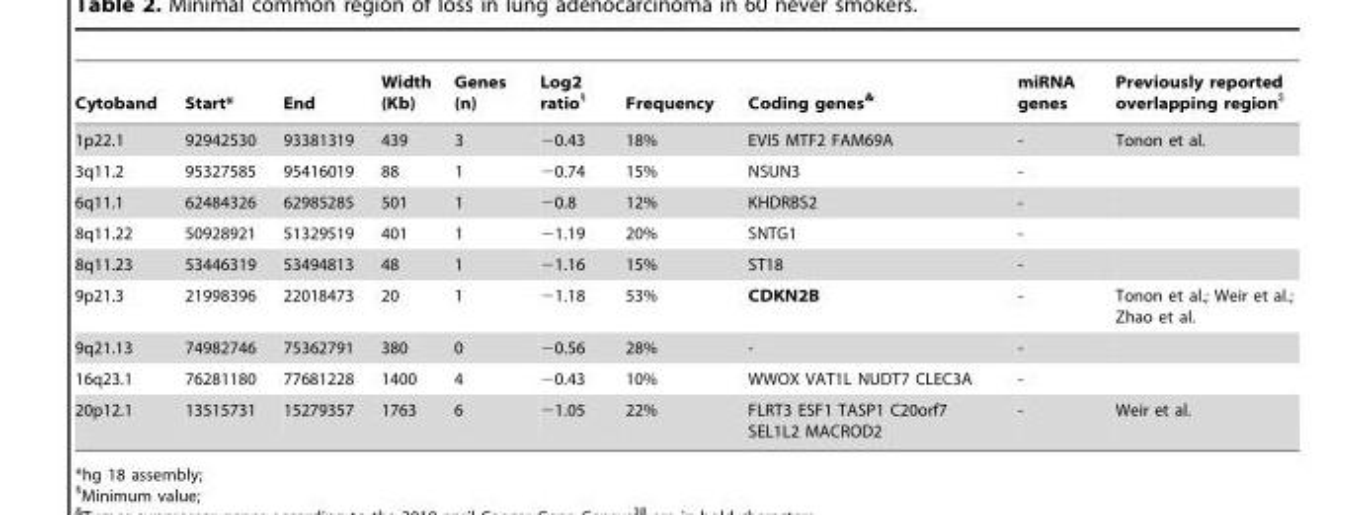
<table><thead><tr><td>Cytoband</td><td>Start*</td><td>End</td><td>Width (Kb)</td><td>Genes (n)</td><td>Log2 ratio§</td><td>Frequency</td><td>Coding genes&amp;</td><td>miRNA genes</td><td>Previously reported overlapping region$</td></tr></thead><tbody><tr><td>1p22.1</td><td>92942530</td><td>93381319</td><td>439</td><td>3</td><td>−0.43</td><td>18%</td><td>EVI5 MTF2 FAM69A</td><td>-</td><td>Tonon et al.</td></tr><tr><td>3q11.2</td><td>95327585</td><td>95416019</td><td>88</td><td>1</td><td>−0.74</td><td>15%</td><td>NSUN3</td><td>-</td><td></td></tr><tr><td>6q11.1</td><td>62484326</td><td>62985285</td><td>501</td><td>1</td><td>−0.8</td><td>12%</td><td>KHDRBS2</td><td>-</td><td></td></tr><tr><td>8q11.22</td><td>50928921</td><td>51329519</td><td>401</td><td>1</td><td>−1.19</td><td>20%</td><td>SNTG1</td><td>-</td><td></td></tr><tr><td>8q11.23</td><td>53446319</td><td>53494813</td><td>48</td><td>1</td><td>−1.16</td><td>15%</td><td>ST18</td><td>-</td><td></td></tr><tr><td>9p21.3</td><td>21998396</td><td>22018473</td><td>20</td><td>1</td><td>−1.18</td><td>53%</td><td>CDKN2B</td><td>-</td><td>Tonon et al.; Weir et al.; Zhao et al.</td></tr><tr><td>9q21.13</td><td>74982746</td><td>75362791</td><td>380</td><td>0</td><td>−0.56</td><td>28%</td><td>-</td><td>-</td><td></td></tr><tr><td>16q23.1</td><td>76281180</td><td>77681228</td><td>1400</td><td>4</td><td>−0.43</td><td>10%</td><td>WWOX VAT1L NUDT7 CLEC3A</td><td>-</td><td></td></tr><tr><td>20p12.1</td><td>13515731</td><td>15279357</td><td>1763</td><td>6</td><td>−1.05</td><td>22%</td><td>FLRT3 ESF1 TASP1 C20orf7 SEL1L2 MACROD2</td><td>-</td><td>Weir et al.</td></tr></tbody></table>